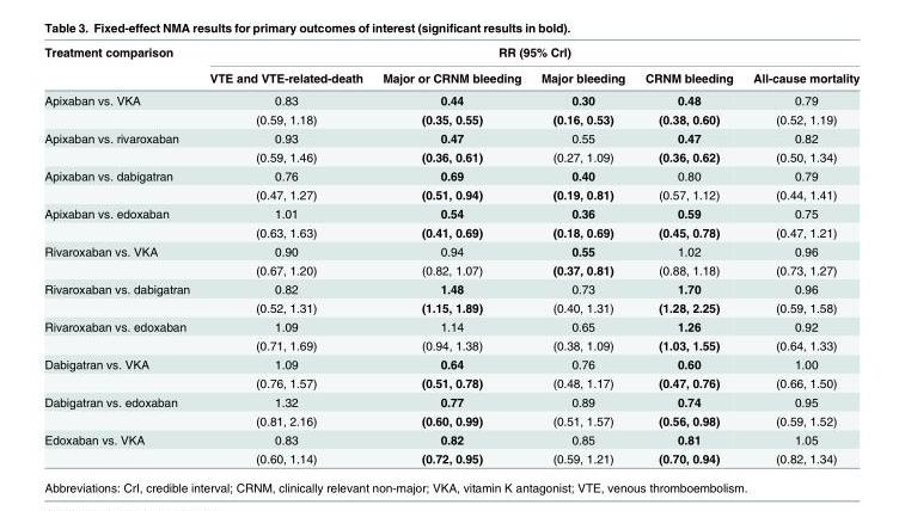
<table><thead><tr><td rowspan="2">Treatment comparison</td><td colspan="5">RR (95% Crl)</td></tr><tr><td>VTE and VTE-related-death</td><td>Major or CRNM bleeding</td><td>Major bleeding</td><td>CRNM bleeding</td><td>All-cause mortality</td></tr></thead><tbody><tr><td rowspan="2">Apixaban vs. VKA</td><td>0.83</td><td>0.44</td><td>0.30</td><td>0.48</td><td>0.79</td></tr><tr><td>(0.59, 1.18)</td><td>(0.35, 0.55)</td><td>(0.16, 0.53)</td><td>(0.38, 0.60)</td><td>(0.52, 1.19)</td></tr><tr><td rowspan="2">Apixaban vs. rivaroxaban</td><td>0.93</td><td>0.47</td><td>0.55</td><td>0.47</td><td>0.82</td></tr><tr><td>(0.59, 1.46)</td><td>(0.36, 0.61)</td><td>(0.27, 1.09)</td><td>(0.36, 0.62)</td><td>(0.50, 1.34)</td></tr><tr><td rowspan="2">Apixaban vs. dabigatran</td><td>0.76</td><td>0.69</td><td>0.40</td><td>0.80</td><td>0.79</td></tr><tr><td>(0.47, 1.27)</td><td>(0.51, 0.94)</td><td>(0.19, 0.81)</td><td>(0.57, 1.12)</td><td>(0.44, 1.41)</td></tr><tr><td rowspan="2">Apixaban vs. edoxaban</td><td>1.01</td><td>0.54</td><td>0.36</td><td>0.59</td><td>0.75</td></tr><tr><td>(0.63, 1.63)</td><td>(0.41, 0.69)</td><td>(0.18, 0.69)</td><td>(0.45, 0.78)</td><td>(0.47, 1.21)</td></tr><tr><td rowspan="2">Rivaroxaban vs. VKA</td><td>0.90</td><td>0.94</td><td>0.55</td><td>1.02</td><td>0.96</td></tr><tr><td>(0.67, 1.20)</td><td>(0.82, 1.07)</td><td>(0.37, 0.81)</td><td>(0.88, 1.18)</td><td>(0.73, 1.27)</td></tr><tr><td rowspan="2">Rivaroxaban vs. dabigatran</td><td>0.82</td><td>1.48</td><td>0.73</td><td>1.70</td><td>0.96</td></tr><tr><td>(0.52, 1.31)</td><td>(1.15, 1.89)</td><td>(0.40, 1.31)</td><td>(1.28, 2.25)</td><td>(0.59, 1.58)</td></tr><tr><td rowspan="2">Rivaroxaban vs. edoxaban</td><td>1.09</td><td>1.14</td><td>0.65</td><td>1.26</td><td>0.92</td></tr><tr><td>(0.71, 1.69)</td><td>(0.94, 1.38)</td><td>(0.38, 1.09)</td><td>(1.03, 1.55)</td><td>(0.64, 1.33)</td></tr><tr><td rowspan="2">Dabigatran vs. VKA</td><td>1.09</td><td>0.64</td><td>0.76</td><td>0.60</td><td>1.00</td></tr><tr><td>(0.76, 1.57)</td><td>(0.51, 0.78)</td><td>(0.48, 1.17)</td><td>(0.47, 0.76)</td><td>(0.66, 1.50)</td></tr><tr><td rowspan="2">Dabigatran vs. edoxaban</td><td>1.32</td><td>0.77</td><td>0.89</td><td>0.74</td><td>0.95</td></tr><tr><td>(0.81, 2.16)</td><td>(0.60, 0.99)</td><td>(0.51, 1.57)</td><td>(0.56, 0.98)</td><td>(0.59, 1.52)</td></tr><tr><td rowspan="2">Edoxaban vs. VKA</td><td>0.83</td><td>0.82</td><td>0.85</td><td>0.81</td><td>1.05</td></tr><tr><td>(0.60, 1.14)</td><td>(0.72, 0.95)</td><td>(0.59, 1.21)</td><td>(0.70, 0.94)</td><td>(0.82, 1.34)</td></tr></tbody></table>